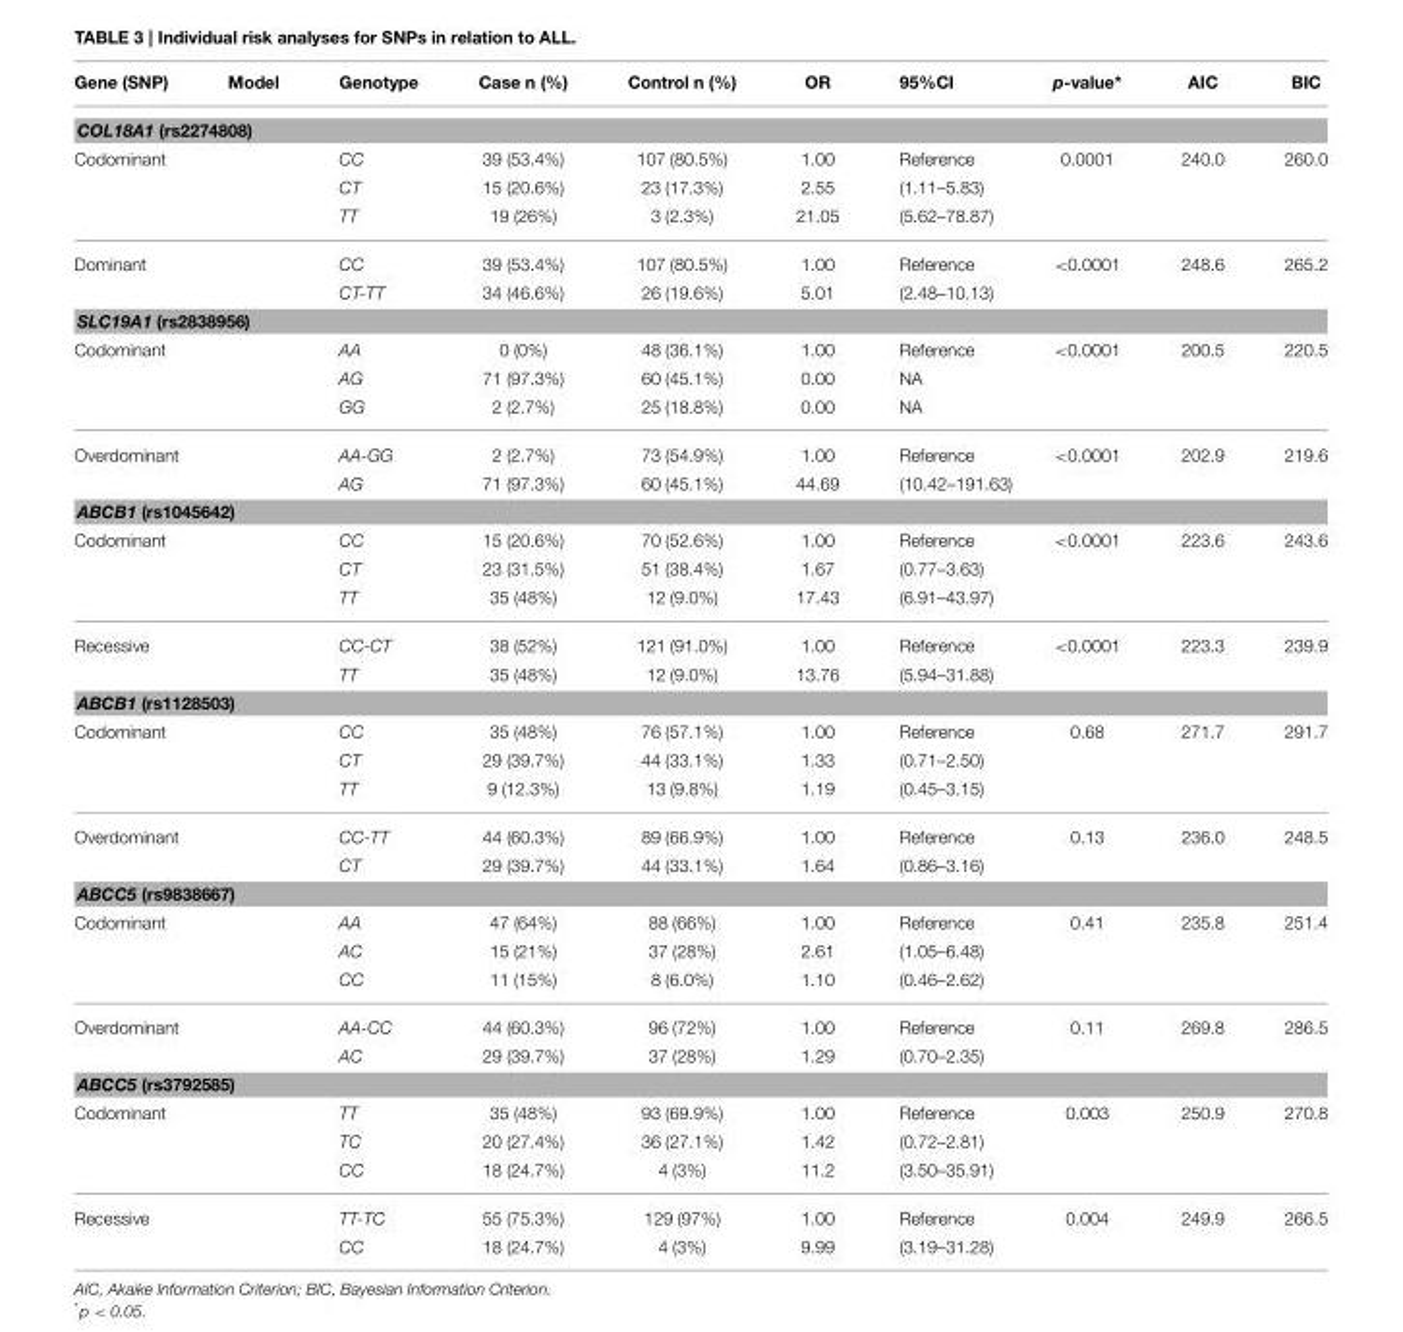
<table><thead><tr><td>Gene (SNP)</td><td>Model</td><td>Genotype</td><td>Case n (%)</td><td>Control n (%)</td><td>OR</td><td>95%CI</td><td>p-value*</td><td>AIC</td><td>BIC</td></tr></thead><tbody><tr><td colspan="10">COL18A1 (rs2274808)</td></tr><tr><td rowspan="3" colspan="2">Codominant</td><td>CC</td><td>39 (53.4%)</td><td>107 (80.5%)</td><td>1.00</td><td>Reference</td><td>0.0001</td><td>240.0</td><td>260.0</td></tr><tr><td>CT</td><td>15 (20.6%)</td><td>23 (17.3%)</td><td>2.55</td><td>(1.11–5.83)</td><td></td><td></td><td></td></tr><tr><td>TT</td><td>19 (26%)</td><td>3 (2.3%)</td><td>21.05</td><td>(5.62–78.87)</td><td></td><td></td><td></td></tr><tr><td rowspan="2" colspan="2">Dominant</td><td>CC</td><td>39 (53.4%)</td><td>107 (80.5%)</td><td>1.00</td><td>Reference</td><td>&lt;0.0001</td><td>248.6</td><td>265.2</td></tr><tr><td>CT-TT</td><td>34 (46.6%)</td><td>26 (19.6%)</td><td>5.01</td><td>(2.48–10.13)</td><td></td><td></td><td></td></tr><tr><td colspan="10">SLC19A1 (rs2838956)</td></tr><tr><td rowspan="3" colspan="2">Codominant</td><td>AA</td><td>0 (0%)</td><td>48 (36.1%)</td><td>1.00</td><td>Reference</td><td>&lt;0.0001</td><td>200.5</td><td>220.5</td></tr><tr><td>AG</td><td>71 (97.3%)</td><td>60 (45.1%)</td><td>0.00</td><td>NA</td><td></td><td></td><td></td></tr><tr><td>GG</td><td>2 (2.7%)</td><td>25 (18.8%)</td><td>0.00</td><td>NA</td><td></td><td></td><td></td></tr><tr><td rowspan="2" colspan="2">Overdominant</td><td>AA-GG</td><td>2 (2.7%)</td><td>73 (54.9%)</td><td>1.00</td><td>Reference</td><td>&lt;0.0001</td><td>202.9</td><td>219.6</td></tr><tr><td>AG</td><td>71 (97.3%)</td><td>60 (45.1%)</td><td>44.69</td><td>(10.42–191.63)</td><td></td><td></td><td></td></tr><tr><td colspan="10">ABCB1 (rs1045642)</td></tr><tr><td rowspan="3" colspan="2">Codominant</td><td>CC</td><td>15 (20.6%)</td><td>70 (52.6%)</td><td>1.00</td><td>Reference</td><td>&lt;0.0001</td><td>223.6</td><td>243.6</td></tr><tr><td>CT</td><td>23 (31.5%)</td><td>51 (38.4%)</td><td>1.67</td><td>(0.77–3.63)</td><td></td><td></td><td></td></tr><tr><td>TT</td><td>35 (48%)</td><td>12 (9.0%)</td><td>17.43</td><td>(6.91–43.97)</td><td></td><td></td><td></td></tr><tr><td rowspan="2" colspan="2">Recessive</td><td>CC-CT</td><td>38 (52%)</td><td>121 (91.0%)</td><td>1.00</td><td>Reference</td><td>&lt;0.0001</td><td>223.3</td><td>239.9</td></tr><tr><td>TT</td><td>35 (48%)</td><td>12 (9.0%)</td><td>13.76</td><td>(5.94–31.88)</td><td></td><td></td><td></td></tr><tr><td colspan="10">ABCB1 (rs1128503)</td></tr><tr><td rowspan="3" colspan="2">Codominant</td><td>CC</td><td>35 (48%)</td><td>76 (57.1%)</td><td>1.00</td><td>Reference</td><td>0.68</td><td>271.7</td><td>291.7</td></tr><tr><td>CT</td><td>29 (39.7%)</td><td>44 (33.1%)</td><td>1.33</td><td>(0.71–2.50)</td><td></td><td></td><td></td></tr><tr><td>TT</td><td>9 (12.3%)</td><td>13 (9.8%)</td><td>1.19</td><td>(0.45–3.15)</td><td></td><td></td><td></td></tr><tr><td rowspan="2" colspan="2">Overdominant</td><td>CC-TT</td><td>44 (60.3%)</td><td>89 (66.9%)</td><td>1.00</td><td>Reference</td><td>0.13</td><td>236.0</td><td>248.5</td></tr><tr><td>CT</td><td>29 (39.7%)</td><td>44 (33.1%)</td><td>1.64</td><td>(0.86–3.16)</td><td></td><td></td><td></td></tr><tr><td colspan="10">ABCC5 (rs9838667)</td></tr><tr><td rowspan="3" colspan="2">Codominant</td><td>AA</td><td>47 (64%)</td><td>88 (66%)</td><td>1.00</td><td>Reference</td><td>0.41</td><td>235.8</td><td>251.4</td></tr><tr><td>AC</td><td>15 (21%)</td><td>37 (28%)</td><td>2.61</td><td>(1.05–6.48)</td><td></td><td></td><td></td></tr><tr><td>CC</td><td>11 (15%)</td><td>8 (6.0%)</td><td>1.10</td><td>(0.46–2.62)</td><td></td><td></td><td></td></tr><tr><td rowspan="2" colspan="2">Overdominant</td><td>AA-CC</td><td>44 (60.3%)</td><td>96 (72%)</td><td>1.00</td><td>Reference</td><td>0.11</td><td>269.8</td><td>286.5</td></tr><tr><td>AC</td><td>29 (39.7%)</td><td>37 (28%)</td><td>1.29</td><td>(0.70–2.35)</td><td></td><td></td><td></td></tr><tr><td colspan="10">ABCC5 (rs3792585)</td></tr><tr><td rowspan="3" colspan="2">Codominant</td><td>TT</td><td>35 (48%)</td><td>93 (69.9%)</td><td>1.00</td><td>Reference</td><td>0.003</td><td>250.9</td><td>270.8</td></tr><tr><td>TC</td><td>20 (27.4%)</td><td>36 (27.1%)</td><td>1.42</td><td>(0.72–2.81)</td><td></td><td></td><td></td></tr><tr><td>CC</td><td>18 (24.7%)</td><td>4 (3%)</td><td>11.2</td><td>(3.50–35.91)</td><td></td><td></td><td></td></tr><tr><td rowspan="2" colspan="2">Recessive</td><td>TT-TC</td><td>55 (75.3%)</td><td>129 (97%)</td><td>1.00</td><td>Reference</td><td>0.004</td><td>249.9</td><td>266.5</td></tr><tr><td>CC</td><td>18 (24.7%)</td><td>4 (3%)</td><td>9.99</td><td>(3.19–31.28)</td><td></td><td></td><td></td></tr></tbody></table>